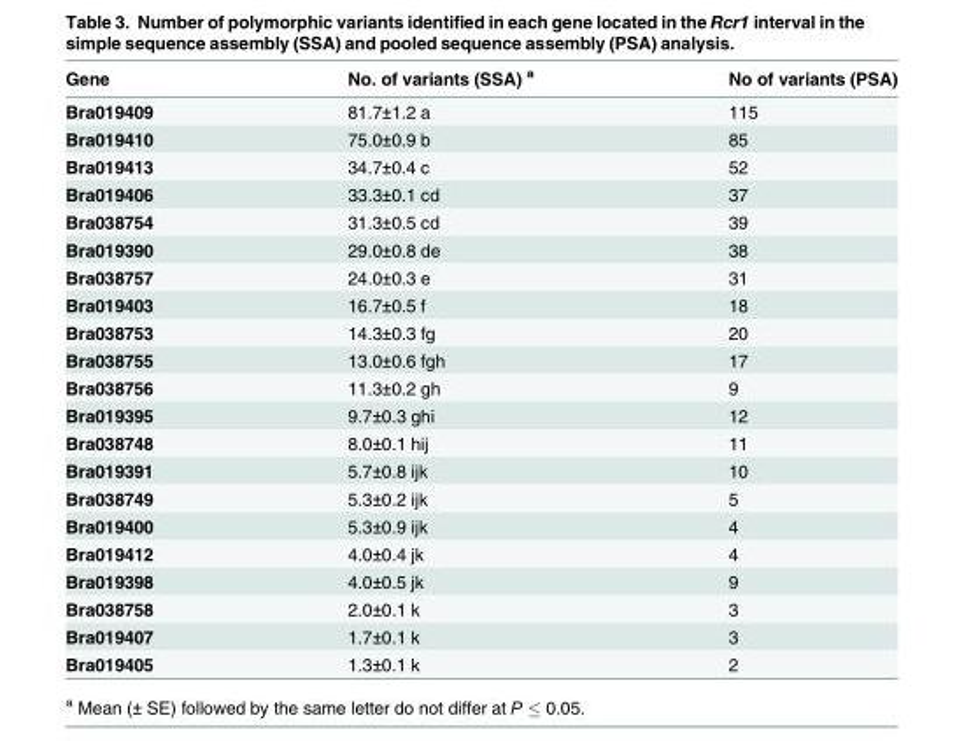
<table><thead><tr><td>Gene</td><td>No. of variants (SSA) <sup>a</sup></td><td>No of variants (PSA)</td></tr></thead><tbody><tr><td>Bra019409</td><td>81.7±1.2 a</td><td>115</td></tr><tr><td>Bra019410</td><td>75.0±0.9 b</td><td>85</td></tr><tr><td>Bra019413</td><td>34.7±0.4 c</td><td>52</td></tr><tr><td>Bra019406</td><td>33.3±0.1 cd</td><td>37</td></tr><tr><td>Bra038754</td><td>31.3±0.5 cd</td><td>39</td></tr><tr><td>Bra019390</td><td>29.0±0.8 de</td><td>38</td></tr><tr><td>Bra038757</td><td>24.0±0.3 e</td><td>31</td></tr><tr><td>Bra019403</td><td>16.7±0.5 f</td><td>18</td></tr><tr><td>Bra038753</td><td>14.3±0.3 fg</td><td>20</td></tr><tr><td>Bra038755</td><td>13.0±0.6 fgh</td><td>17</td></tr><tr><td>Bra038756</td><td>11.3±0.2 gh</td><td>9</td></tr><tr><td>Bra019395</td><td>9.7±0.3 ghi</td><td>12</td></tr><tr><td>Bra038748</td><td>8.0±0.1 hij</td><td>11</td></tr><tr><td>Bra019391</td><td>5.7±0.8 ijk</td><td>10</td></tr><tr><td>Bra038749</td><td>5.3±0.2 ijk</td><td>5</td></tr><tr><td>Bra019400</td><td>5.3±0.9 ijk</td><td>4</td></tr><tr><td>Bra019412</td><td>4.0±0.4 jk</td><td>4</td></tr><tr><td>Bra019398</td><td>4.0±0.5 jk</td><td>9</td></tr><tr><td>Bra038758</td><td>2.0±0.1 k</td><td>3</td></tr><tr><td>Bra019407</td><td>1.7±0.1 k</td><td>3</td></tr><tr><td>Bra019405</td><td>1.3±0.1 k</td><td>2</td></tr></tbody></table>